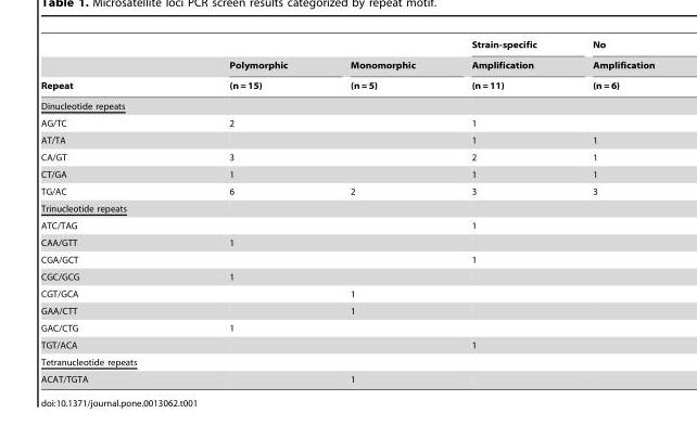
<table><thead><tr><td rowspan="3">Repeat</td><td rowspan="3">Polymorphic (n = 15)</td><td rowspan="3">Monomorphic (n = 5)</td><td rowspan="3">Strain-specific Amplification (n = 11)</td><td rowspan="3">No Amplification (n = 6)</td></tr><tr></tr><tr></tr></thead><tbody><tr><td colspan="5">Dinucleotide repeats</td></tr><tr><td>AG/TC</td><td>2</td><td></td><td>1</td><td></td></tr><tr><td>AT/TA</td><td></td><td></td><td>1</td><td>1</td></tr><tr><td>CA/GT</td><td>3</td><td></td><td>2</td><td>1</td></tr><tr><td>CT/GA</td><td>1</td><td></td><td>1</td><td>1</td></tr><tr><td>TG/AC</td><td>6</td><td>2</td><td>3</td><td>3</td></tr><tr><td colspan="5">Trinucleotide repeats</td></tr><tr><td>ATC/TAG</td><td></td><td></td><td>1</td><td></td></tr><tr><td>CAA/GTT</td><td>1</td><td></td><td></td><td></td></tr><tr><td>CGA/GCT</td><td></td><td></td><td>1</td><td></td></tr><tr><td>CGC/GCG</td><td>1</td><td></td><td></td><td></td></tr><tr><td>CGT/GCA</td><td></td><td>1</td><td></td><td></td></tr><tr><td>GAA/CTT</td><td></td><td>1</td><td></td><td></td></tr><tr><td>GAC/CTG</td><td>1</td><td></td><td></td><td></td></tr><tr><td>TGT/ACA</td><td></td><td></td><td>1</td><td></td></tr><tr><td colspan="5">Tetranucleotide repeats</td></tr><tr><td>ACAT/TGTA</td><td></td><td>1</td><td></td><td></td></tr></tbody></table>